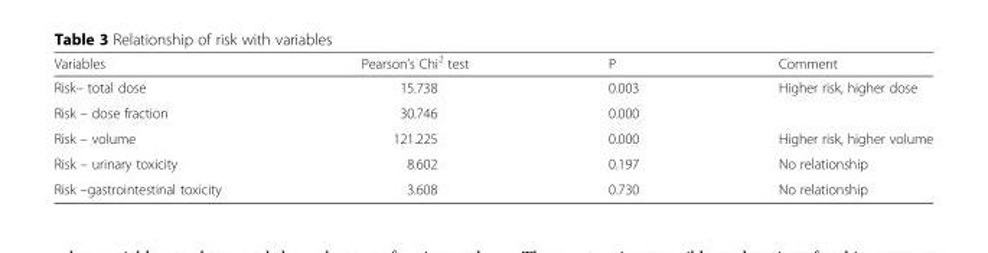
<table><thead><tr><td>Variables</td><td>Pearson’s Chi<sup>2</sup> test</td><td>P</td><td>Comment</td></tr></thead><tbody><tr><td>Risk– total dose</td><td>15.738</td><td>0.003</td><td>Higher risk, higher dose</td></tr><tr><td>Risk – dose fraction</td><td>30.746</td><td>0.000</td><td></td></tr><tr><td>Risk – volume</td><td>121.225</td><td>0.000</td><td>Higher risk, higher volume</td></tr><tr><td>Risk – urinary toxicity</td><td>8.602</td><td>0.197</td><td>No relationship</td></tr><tr><td>Risk –gastrointestinal toxicity</td><td>3.608</td><td>0.730</td><td>No relationship</td></tr></tbody></table>